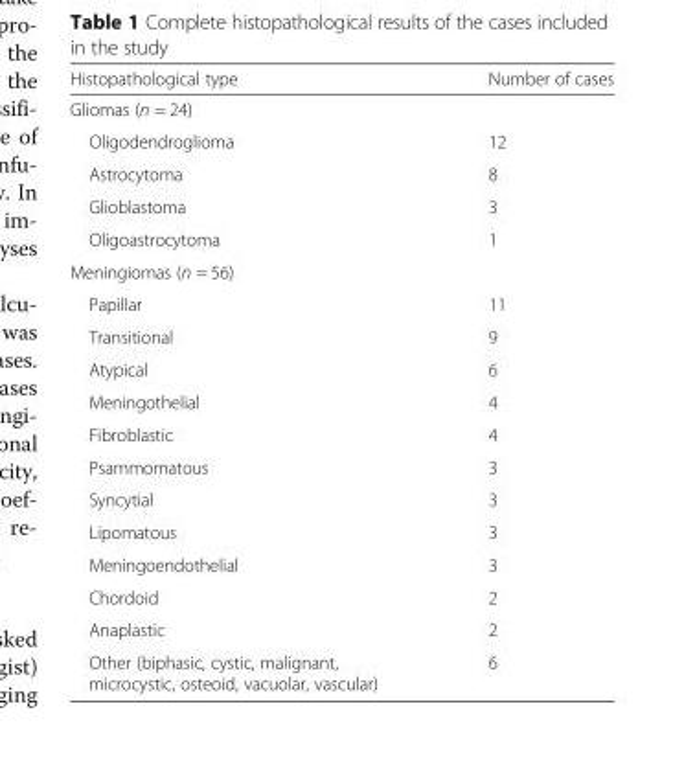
<table><thead><tr><td>Histopathological type</td><td>Number of cases</td></tr></thead><tbody><tr><td colspan="2">Gliomas (n = 24)</td></tr><tr><td>Oligodendroglioma</td><td>12</td></tr><tr><td>Astrocytoma</td><td>8</td></tr><tr><td>Glioblastoma</td><td>3</td></tr><tr><td>Oligoastrocytoma</td><td>1</td></tr><tr><td colspan="2">Meningiomas (n = 56)</td></tr><tr><td>Papillar</td><td>11</td></tr><tr><td>Transitional</td><td>9</td></tr><tr><td>Atypical</td><td>6</td></tr><tr><td>Meningothelial</td><td>4</td></tr><tr><td>Fibroblastic</td><td>4</td></tr><tr><td>Psammomatous</td><td>3</td></tr><tr><td>Syncytial</td><td>3</td></tr><tr><td>Lipomatous</td><td>3</td></tr><tr><td>Meningoendothelial</td><td>3</td></tr><tr><td>Chordoid</td><td>2</td></tr><tr><td>Anaplastic</td><td>2</td></tr><tr><td>Other (biphasic, cystic, malignant, microcystic, osteoid, vacuolar, vascular)</td><td>6</td></tr></tbody></table>